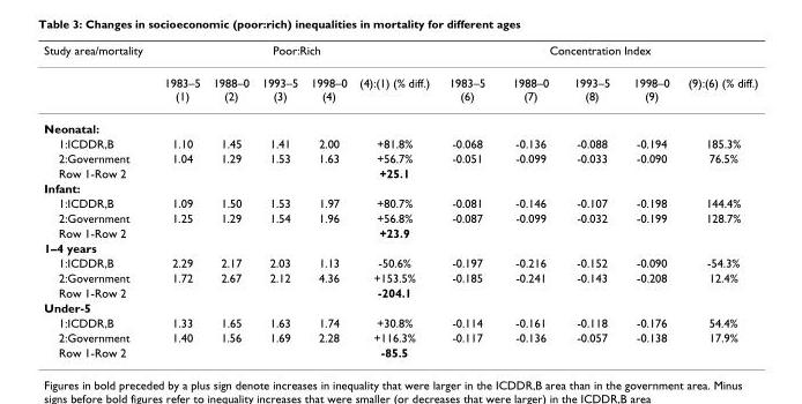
<table><thead><tr><td rowspan="2">Study area/mortality</td><td colspan="5">Poor:Rich</td><td colspan="5">Concentration Index</td></tr><tr><td>1983–5 (1)</td><td>1988–0 (2)</td><td>1993–5 (3)</td><td>1998–0 (4)</td><td>(4):(1) (% diff.)</td><td>1983–5 (6)</td><td>1988–0 (7)</td><td>1993–5 (8)</td><td>1998–0 (9)</td><td>(9):(6) (% diff.)</td></tr></thead><tbody><tr><td colspan="11">Neonatal:</td></tr><tr><td>1:ICDDR,B</td><td>1.10</td><td>1.45</td><td>1.41</td><td>2.00</td><td>+81.8%</td><td>-0.068</td><td>-0.136</td><td>-0.088</td><td>-0.194</td><td>185.3%</td></tr><tr><td>2:Government</td><td>1.04</td><td>1.29</td><td>1.53</td><td>1.63</td><td>+56.7%</td><td>-0.051</td><td>-0.099</td><td>-0.033</td><td>-0.090</td><td>76.5%</td></tr><tr><td>Row 1-Row 2</td><td></td><td></td><td></td><td></td><td>+25.1</td><td></td><td></td><td></td><td></td><td></td></tr><tr><td colspan="11">Infant:</td></tr><tr><td>1:ICDDR,B</td><td>1.09</td><td>1.50</td><td>1.53</td><td>1.97</td><td>+80.7%</td><td>-0.081</td><td>-0.146</td><td>-0.107</td><td>-0.198</td><td>144.4%</td></tr><tr><td>2:Government</td><td>1.25</td><td>1.29</td><td>1.54</td><td>1.96</td><td>+56.8%</td><td>-0.087</td><td>-0.099</td><td>-0.032</td><td>-0.199</td><td>128.7%</td></tr><tr><td>Row 1-Row 2</td><td></td><td></td><td></td><td></td><td>+23.9</td><td></td><td></td><td></td><td></td><td></td></tr><tr><td colspan="11">1–4 years</td></tr><tr><td>1:ICDDR,B</td><td>2.29</td><td>2.17</td><td>2.03</td><td>1.13</td><td>-50.6%</td><td>-0.197</td><td>-0.216</td><td>-0.152</td><td>-0.090</td><td>-54.3%</td></tr><tr><td>2:Government</td><td>1.72</td><td>2.67</td><td>2.12</td><td>4.36</td><td>+153.5%</td><td>-0.185</td><td>-0.241</td><td>-0.143</td><td>-0.208</td><td>12.4%</td></tr><tr><td>Row 1-Row 2</td><td></td><td></td><td></td><td></td><td>-204.1</td><td></td><td></td><td></td><td></td><td></td></tr><tr><td colspan="11">Under-5</td></tr><tr><td>1:ICDDR,B</td><td>1.33</td><td>1.65</td><td>1.63</td><td>1.74</td><td>+30.8%</td><td>-0.114</td><td>-0.161</td><td>-0.118</td><td>-0.176</td><td>54.4%</td></tr><tr><td>2:Government</td><td>1.40</td><td>1.56</td><td>1.69</td><td>2.28</td><td>+116.3%</td><td>-0.117</td><td>-0.136</td><td>-0.057</td><td>-0.138</td><td>17.9%</td></tr><tr><td>Row 1-Row 2</td><td></td><td></td><td></td><td></td><td>-85.5</td><td></td><td></td><td></td><td></td><td></td></tr></tbody></table>